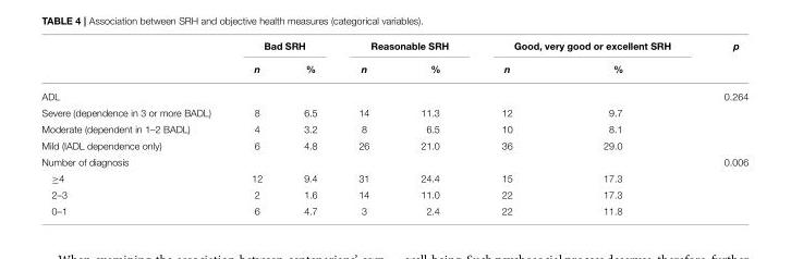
<table><thead><tr><td rowspan="2"></td><td colspan="2">Bad SRH</td><td colspan="2">Reasonable SRH</td><td colspan="2">Good, very good or excellent SRH</td><td rowspan="2">p</td></tr><tr><td>n</td><td>%</td><td>n</td><td>%</td><td>n</td><td>%</td></tr></thead><tbody><tr><td>ADL</td><td></td><td></td><td></td><td></td><td></td><td></td><td>0.264</td></tr><tr><td>Severe (dependence in 3 or more BADL)</td><td>8</td><td>6.5</td><td>14</td><td>11.3</td><td>12</td><td>9.7</td><td></td></tr><tr><td>Moderate (dependent in 1–2 BADL)</td><td>4</td><td>3.2</td><td>8</td><td>6.5</td><td>10</td><td>8.1</td><td></td></tr><tr><td>Mild (IADL dependence only)</td><td>6</td><td>4.8</td><td>26</td><td>21.0</td><td>36</td><td>29.0</td><td></td></tr><tr><td>Number of diagnosis</td><td></td><td></td><td></td><td></td><td></td><td></td><td>0.006</td></tr><tr><td>≥4</td><td>12</td><td>9.4</td><td>31</td><td>24.4</td><td>15</td><td>17.3</td><td></td></tr><tr><td>2–3</td><td>2</td><td>1.6</td><td>14</td><td>11.0</td><td>22</td><td>17.3</td><td></td></tr><tr><td>0–1</td><td>6</td><td>4.7</td><td>3</td><td>2.4</td><td>22</td><td>11.8</td><td></td></tr></tbody></table>